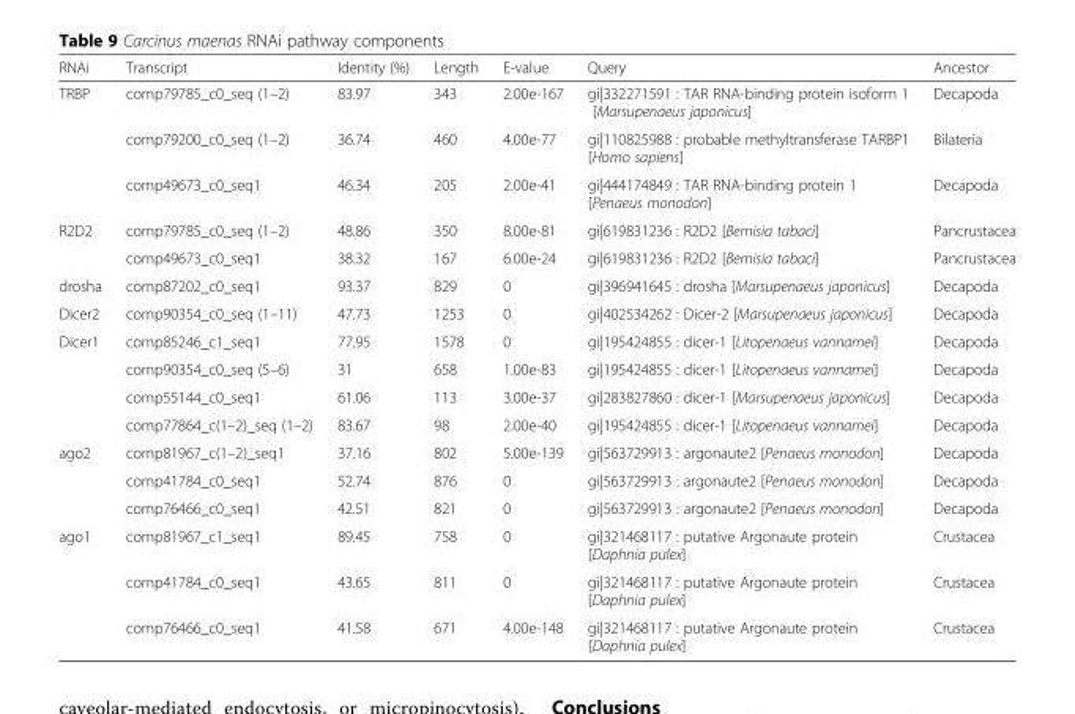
<table><thead><tr><td>RNAi</td><td>Transcript</td><td>Identity (%)</td><td>Length</td><td>E-value</td><td>Query</td><td>Ancestor</td></tr></thead><tbody><tr><td rowspan="3">TRBP</td><td>comp79785_c0_seq (1–2)</td><td>83.97</td><td>343</td><td>2.00e-167</td><td>gi|332271591 : TAR RNA-binding protein isoform 1 [Marsupenaeus japonicus]</td><td>Decapoda</td></tr><tr><td>comp79200_c0_seq (1–2)</td><td>36.74</td><td>460</td><td>4.00e-77</td><td>gi|110825988 : probable methyltransferase TARBP1 [Homo sapiens]</td><td>Bilateria</td></tr><tr><td>comp49673_c0_seq1</td><td>46.34</td><td>205</td><td>2.00e-41</td><td>gi|444174849 : TAR RNA-binding protein 1 [Penaeus monodon]</td><td>Decapoda</td></tr><tr><td rowspan="2">R2D2</td><td>comp79785_c0_seq (1–2)</td><td>48.86</td><td>350</td><td>8.00e-81</td><td>gi|619831236 : R2D2 [Bemisia tabaci]</td><td>Pancrustacea</td></tr><tr><td>comp49673_c0_seq1</td><td>38.32</td><td>167</td><td>6.00e-24</td><td>gi|619831236 : R2D2 [Bemisia tabaci]</td><td>Pancrustacea</td></tr><tr><td>drosha</td><td>comp87202_c0_seq1</td><td>93.37</td><td>829</td><td>0</td><td>gi|396941645 : drosha [Marsupenaeus japonicus]</td><td>Decapoda</td></tr><tr><td>Dicer2</td><td>comp90354_c0_seq (1–11)</td><td>47.73</td><td>1253</td><td>0</td><td>gi|402534262 : Dicer-2 [Marsupenaeus japonicus]</td><td>Decapoda</td></tr><tr><td rowspan="4">Dicer1</td><td>comp85246_c1_seq1</td><td>77.95</td><td>1578</td><td>0</td><td>gi|195424855 : dicer-1 [Litopenaeus vannamei]</td><td>Decapoda</td></tr><tr><td>comp90354_c0_seq (5–6)</td><td>31</td><td>658</td><td>1.00e-83</td><td>gi|195424855 : dicer-1 [Litopenaeus vannamei]</td><td>Decapoda</td></tr><tr><td>comp55144_c0_seq1</td><td>61.06</td><td>113</td><td>3.00e-37</td><td>gi|283827860 : dicer-1 [Marsupenaeus japonicus]</td><td>Decapoda</td></tr><tr><td>comp77864_c(1–2)_seq (1–2)</td><td>83.67</td><td>98</td><td>2.00e-40</td><td>gi|195424855 : dicer-1 [Litopenaeus vannamei]</td><td>Decapoda</td></tr><tr><td rowspan="3">ago2</td><td>comp81967_c(1–2)_seq1</td><td>37.16</td><td>802</td><td>5.00e-139</td><td>gi|563729913 : argonaute2 [Penaeus monodon]</td><td>Decapoda</td></tr><tr><td>comp41784_c0_seq1</td><td>52.74</td><td>876</td><td>0</td><td>gi|563729913 : argonaute2 [Penaeus monodon]</td><td>Decapoda</td></tr><tr><td>comp76466_c0_seq1</td><td>42.51</td><td>821</td><td>0</td><td>gi|563729913 : argonaute2 [Penaeus monodon]</td><td>Decapoda</td></tr><tr><td rowspan="3">ago1</td><td>comp81967_c1_seq1</td><td>89.45</td><td>758</td><td>0</td><td>gi|321468117 : putative Argonaute protein [Daphnia pulex]</td><td>Crustacea</td></tr><tr><td>comp41784_c0_seq1</td><td>43.65</td><td>811</td><td>0</td><td>gi|321468117 : putative Argonaute protein [Daphnia pulex]</td><td>Crustacea</td></tr><tr><td>comp76466_c0_seq1</td><td>41.58</td><td>671</td><td>4.00e-148</td><td>gi|321468117 : putative Argonaute protein [Daphnia pulex]</td><td>Crustacea</td></tr></tbody></table>